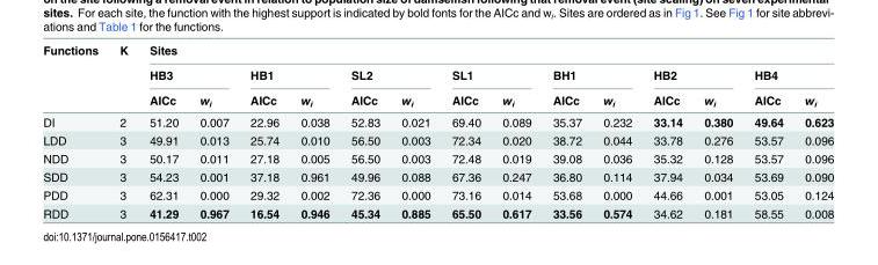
<table><thead><tr><td rowspan="3">Functions</td><td rowspan="3">K</td><td colspan="14">Sites</td></tr><tr><td colspan="2">HB3</td><td colspan="2">HB1</td><td colspan="2">SL2</td><td colspan="2">SL1</td><td colspan="2">BH1</td><td colspan="2">HB2</td><td colspan="2">HB4</td></tr><tr><td>AICc</td><td>w<sub>i</sub></td><td>AICc</td><td>w<sub>i</sub></td><td>AICc</td><td>w<sub>i</sub></td><td>AICc</td><td>w<sub>i</sub></td><td>AICc</td><td>w<sub>i</sub></td><td>AICc</td><td>w<sub>i</sub></td><td>AICc</td><td>w<sub>i</sub></td></tr></thead><tbody><tr><td>DI</td><td>2</td><td>51.20</td><td>0.007</td><td>22.96</td><td>0.038</td><td>52.83</td><td>0.021</td><td>69.40</td><td>0.089</td><td>35.37</td><td>0.232</td><td>33.14</td><td>0.380</td><td>49.64</td><td>0.623</td></tr><tr><td>LDD</td><td>3</td><td>49.91</td><td>0.013</td><td>25.74</td><td>0.010</td><td>56.50</td><td>0.003</td><td>72.34</td><td>0.020</td><td>38.72</td><td>0.044</td><td>33.78</td><td>0.276</td><td>53.57</td><td>0.096</td></tr><tr><td>NDD</td><td>3</td><td>50.17</td><td>0.011</td><td>27.18</td><td>0.005</td><td>56.50</td><td>0.003</td><td>72.48</td><td>0.019</td><td>39.08</td><td>0.036</td><td>35.32</td><td>0.128</td><td>53.57</td><td>0.096</td></tr><tr><td>SDD</td><td>3</td><td>54.23</td><td>0.001</td><td>37.18</td><td>0.961</td><td>49.96</td><td>0.088</td><td>67.36</td><td>0.247</td><td>36.80</td><td>0.114</td><td>37.94</td><td>0.034</td><td>53.69</td><td>0.090</td></tr><tr><td>PDD</td><td>3</td><td>62.31</td><td>0.000</td><td>29.32</td><td>0.002</td><td>72.36</td><td>0.000</td><td>73.16</td><td>0.014</td><td>53.68</td><td>0.000</td><td>44.66</td><td>0.001</td><td>53.05</td><td>0.124</td></tr><tr><td>RDD</td><td>3</td><td>41.29</td><td>0.967</td><td>16.54</td><td>0.946</td><td>45.34</td><td>0.885</td><td>65.50</td><td>0.617</td><td>33.56</td><td>0.574</td><td>34.62</td><td>0.181</td><td>58.55</td><td>0.008</td></tr></tbody></table>